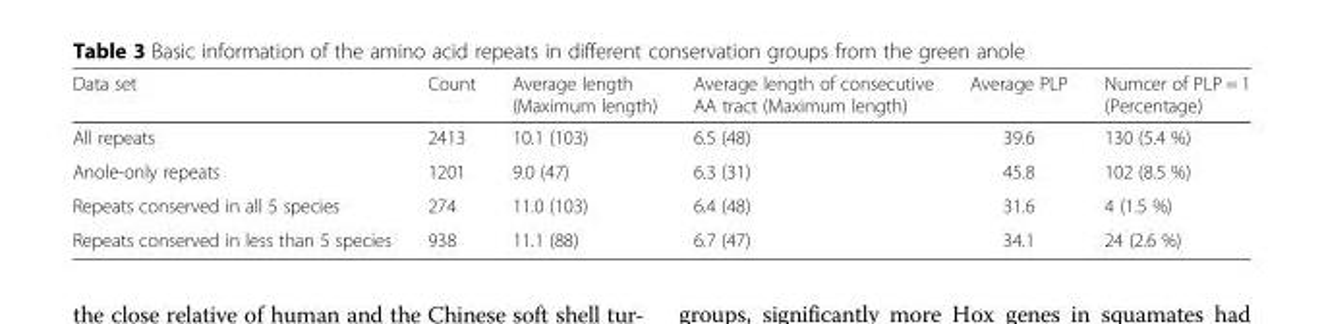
<table><thead><tr><td>Data set</td><td>Count</td><td>Average length (Maximum length)</td><td>Average length of consecutive AA tract (Maximum length)</td><td>Average PLP</td><td>Numcer of PLP = 1 (Percentage)</td></tr></thead><tbody><tr><td>All repeats</td><td>2413</td><td>10.1 (103)</td><td>6.5 (48)</td><td>39.6</td><td>130 (5.4 %)</td></tr><tr><td>Anole-only repeats</td><td>1201</td><td>9.0 (47)</td><td>6.3 (31)</td><td>45.8</td><td>102 (8.5 %)</td></tr><tr><td>Repeats conserved in all 5 species</td><td>274</td><td>11.0 (103)</td><td>6.4 (48)</td><td>31.6</td><td>4 (1.5 %)</td></tr><tr><td>Repeats conserved in less than 5 species</td><td>938</td><td>11.1 (88)</td><td>6.7 (47)</td><td>34.1</td><td>24 (2.6 %)</td></tr></tbody></table>